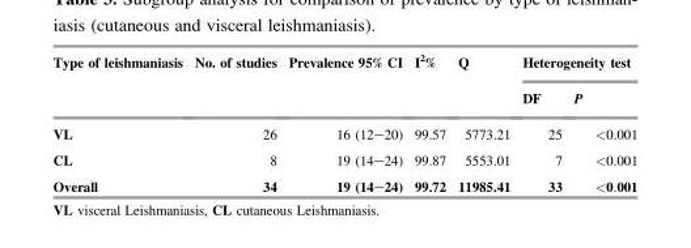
<table><thead><tr><td rowspan="2">Type of leishmaniasis</td><td rowspan="2">No. of studies</td><td rowspan="2">Prevalence 95% CI</td><td rowspan="2">I<sup>2</sup>%</td><td rowspan="2">Q</td><td colspan="2">Heterogeneity test</td></tr><tr><td>DF</td><td>P</td></tr></thead><tbody><tr><td>VL</td><td>26</td><td>16 (12–20)</td><td>99.57</td><td>5773.21</td><td>25</td><td>&lt;0.001</td></tr><tr><td>CL</td><td>8</td><td>19 (14–24)</td><td>99.87</td><td>5553.01</td><td>7</td><td>&lt;0.001</td></tr><tr><td>Overall</td><td>34</td><td>19 (14–24)</td><td>99.72</td><td>11985.41</td><td>33</td><td>&lt;0.001</td></tr></tbody></table>